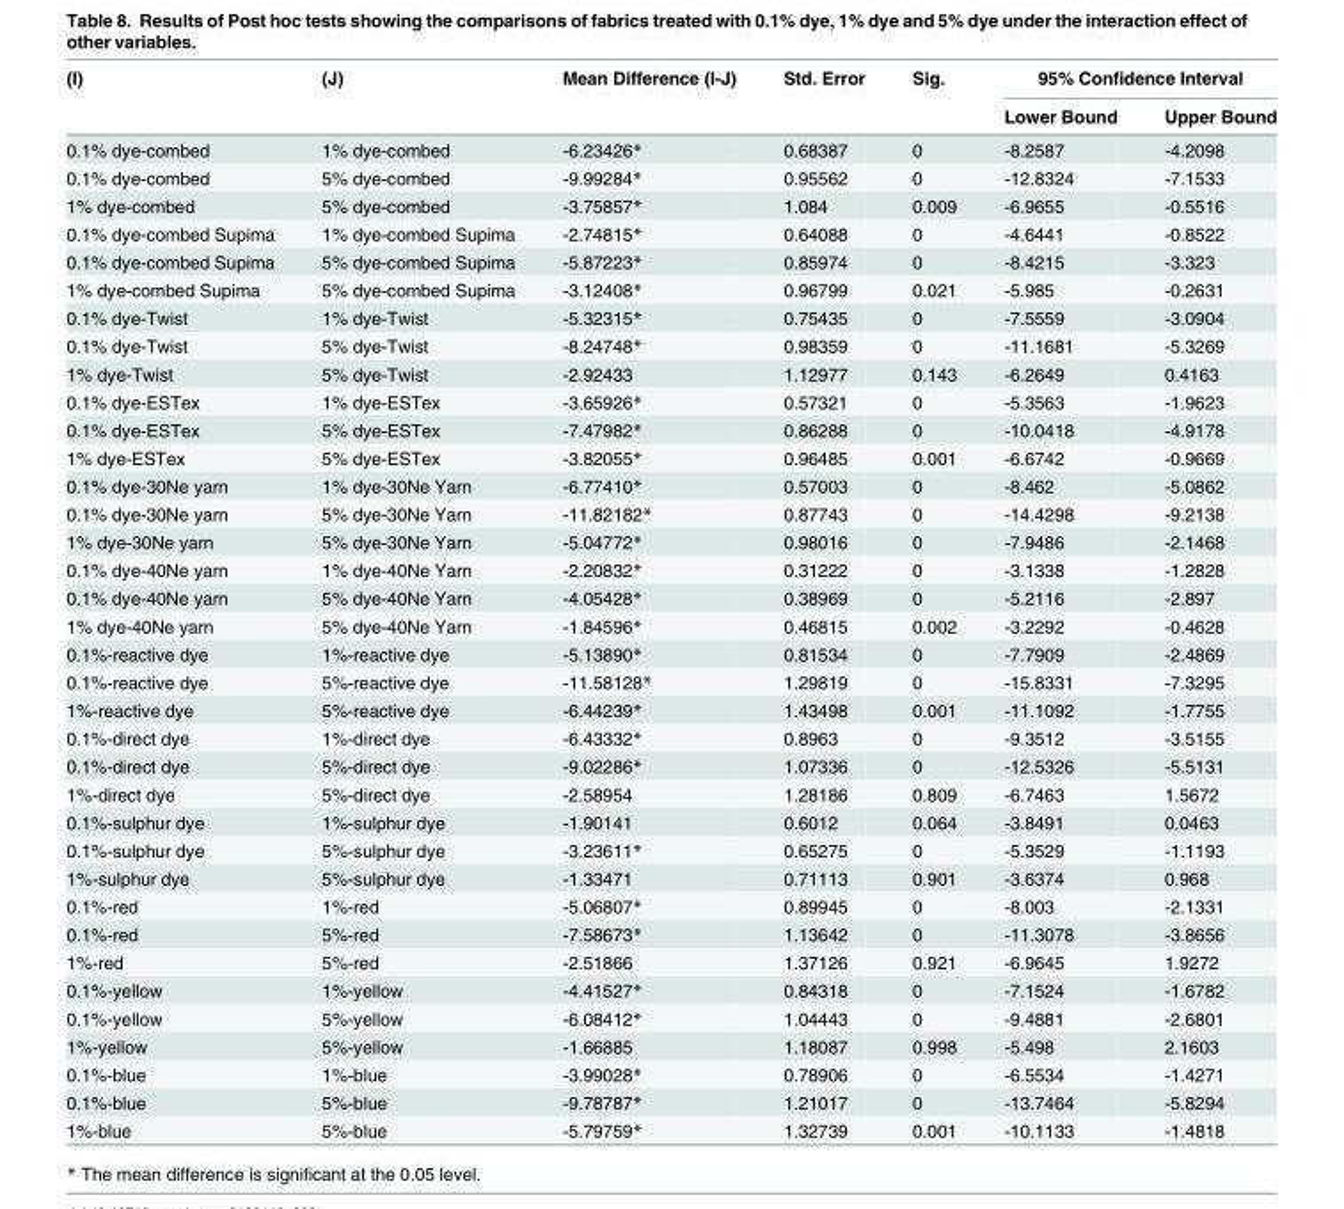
<table><thead><tr><td rowspan="2">(I)</td><td rowspan="2">(J)</td><td rowspan="2">Mean Difference (I-J)</td><td rowspan="2">Std. Error</td><td rowspan="2">Sig.</td><td colspan="2">95% Confidence Interval</td></tr><tr><td>Lower Bound</td><td>Upper Bound</td></tr></thead><tbody><tr><td>0.1% dye-combed</td><td>1% dye-combed</td><td>-6.23426*</td><td>0.68387</td><td>0</td><td>-8.2587</td><td>-4.2098</td></tr><tr><td>0.1% dye-combed</td><td>5% dye-combed</td><td>-9.99284*</td><td>0.95562</td><td>0</td><td>-12.8324</td><td>-7.1533</td></tr><tr><td>1% dye-combed</td><td>5% dye-combed</td><td>-3.75857*</td><td>1.084</td><td>0.009</td><td>-6.9655</td><td>-0.5516</td></tr><tr><td>0.1% dye-combed Supima</td><td>1% dye-combed Supima</td><td>-2.74815*</td><td>0.64088</td><td>0</td><td>-4.6441</td><td>-0.8522</td></tr><tr><td>0.1% dye-combed Supima</td><td>5% dye-combed Supima</td><td>-5.87223*</td><td>0.85974</td><td>0</td><td>-8.4215</td><td>-3.323</td></tr><tr><td>1% dye-combed Supima</td><td>5% dye-combed Supima</td><td>-3.12408*</td><td>0.96799</td><td>0.021</td><td>-5.985</td><td>-0.2631</td></tr><tr><td>0.1% dye-Twist</td><td>1% dye-Twist</td><td>-5.32315*</td><td>0.75435</td><td>0</td><td>-7.5559</td><td>-3.0904</td></tr><tr><td>0.1% dye-Twist</td><td>5% dye-Twist</td><td>-8.24748*</td><td>0.98359</td><td>0</td><td>-11.1681</td><td>-5.3269</td></tr><tr><td>1% dye-Twist</td><td>5% dye-Twist</td><td>-2.92433</td><td>1.12977</td><td>0.143</td><td>-6.2649</td><td>0.4163</td></tr><tr><td>0.1% dye-ESTex</td><td>1% dye-ESTex</td><td>-3.65926*</td><td>0.57321</td><td>0</td><td>-5.3563</td><td>-1.9623</td></tr><tr><td>0.1% dye-ESTex</td><td>5% dye-ESTex</td><td>-7.47982*</td><td>0.86288</td><td>0</td><td>-10.0418</td><td>-4.9178</td></tr><tr><td>1% dye-ESTex</td><td>5% dye-ESTex</td><td>-3.82055*</td><td>0.96485</td><td>0.001</td><td>-6.6742</td><td>-0.9669</td></tr><tr><td>0.1% dye-30Ne yarn</td><td>1% dye-30Ne Yarn</td><td>-6.77410*</td><td>0.57003</td><td>0</td><td>-8.462</td><td>-5.0862</td></tr><tr><td>0.1% dye-30Ne yarn</td><td>5% dye-30Ne Yarn</td><td>-11.82182*</td><td>0.87743</td><td>0</td><td>-14.4298</td><td>-9.2138</td></tr><tr><td>1% dye-30Ne yarn</td><td>5% dye-30Ne Yarn</td><td>-5.04772*</td><td>0.98016</td><td>0</td><td>-7.9486</td><td>-2.1468</td></tr><tr><td>0.1% dye-40Ne yarn</td><td>1% dye-40Ne Yarn</td><td>-2.20832*</td><td>0.31222</td><td>0</td><td>-3.1338</td><td>-1.2828</td></tr><tr><td>0.1% dye-40Ne yarn</td><td>5% dye-40Ne Yarn</td><td>-4.05428*</td><td>0.38969</td><td>0</td><td>-5.2116</td><td>-2.897</td></tr><tr><td>1% dye-40Ne yarn</td><td>5% dye-40Ne Yarn</td><td>-1.84596*</td><td>0.46815</td><td>0.002</td><td>-3.2292</td><td>-0.4628</td></tr><tr><td>0.1%-reactive dye</td><td>1%-reactive dye</td><td>-5.13890*</td><td>0.81534</td><td>0</td><td>-7.7909</td><td>-2.4869</td></tr><tr><td>0.1%-reactive dye</td><td>5%-reactive dye</td><td>-11.58128*</td><td>1.29819</td><td>0</td><td>-15.8331</td><td>-7.3295</td></tr><tr><td>1%-reactive dye</td><td>5%-reactive dye</td><td>-6.44239*</td><td>1.43498</td><td>0.001</td><td>-11.1092</td><td>-1.7755</td></tr><tr><td>0.1%-direct dye</td><td>1%-direct dye</td><td>-6.43332*</td><td>0.8963</td><td>0</td><td>-9.3512</td><td>-3.5155</td></tr><tr><td>0.1%-direct dye</td><td>5%-direct dye</td><td>-9.02286*</td><td>1.07336</td><td>0</td><td>-12.5326</td><td>-5.5131</td></tr><tr><td>1%-direct dye</td><td>5%-direct dye</td><td>-2.58954</td><td>1.28186</td><td>0.809</td><td>-6.7463</td><td>1.5672</td></tr><tr><td>0.1%-sulphur dye</td><td>1%-sulphur dye</td><td>-1.90141</td><td>0.6012</td><td>0.064</td><td>-3.8491</td><td>0.0463</td></tr><tr><td>0.1%-sulphur dye</td><td>5%-sulphur dye</td><td>-3.23611*</td><td>0.65275</td><td>0</td><td>-5.3529</td><td>-1.1193</td></tr><tr><td>1%-sulphur dye</td><td>5%-sulphur dye</td><td>-1.33471</td><td>0.71113</td><td>0.901</td><td>-3.6374</td><td>0.968</td></tr><tr><td>0.1%-red</td><td>1%-red</td><td>-5.06807*</td><td>0.89945</td><td>0</td><td>-8.003</td><td>-2.1331</td></tr><tr><td>0.1%-red</td><td>5%-red</td><td>-7.58673*</td><td>1.13642</td><td>0</td><td>-11.3078</td><td>-3.8656</td></tr><tr><td>1%-red</td><td>5%-red</td><td>-2.51866</td><td>1.37126</td><td>0.921</td><td>-6.9645</td><td>1.9272</td></tr><tr><td>0.1%-yellow</td><td>1%-yellow</td><td>-4.41527*</td><td>0.84318</td><td>0</td><td>-7.1524</td><td>-1.6782</td></tr><tr><td>0.1%-yellow</td><td>5%-yellow</td><td>-6.08412*</td><td>1.04443</td><td>0</td><td>-9.4881</td><td>-2.6801</td></tr><tr><td>1%-yellow</td><td>5%-yellow</td><td>-1.66885</td><td>1.18087</td><td>0.998</td><td>-5.498</td><td>2.1603</td></tr><tr><td>0.1%-blue</td><td>1%-blue</td><td>-3.99028*</td><td>0.78906</td><td>0</td><td>-6.5534</td><td>-1.4271</td></tr><tr><td>0.1%-blue</td><td>5%-blue</td><td>-9.78787*</td><td>1.21017</td><td>0</td><td>-13.7464</td><td>-5.8294</td></tr><tr><td>1%-blue</td><td>5%-blue</td><td>-5.79759*</td><td>1.32739</td><td>0.001</td><td>-10.1133</td><td>-1.4818</td></tr></tbody></table>